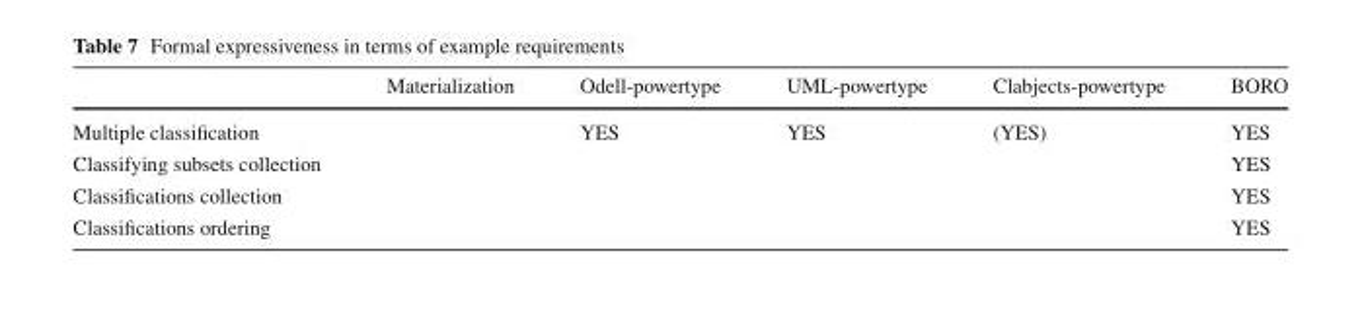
<table><thead><tr><td></td><td>Materialization</td><td>Odell-powertype</td><td>UML-powertype</td><td>Clabjects-powertype</td><td>BORO</td></tr></thead><tbody><tr><td>Multiple classification</td><td></td><td>YES</td><td>YES</td><td>(YES)</td><td>YES</td></tr><tr><td>Classifying subsets collection</td><td></td><td></td><td></td><td></td><td>YES</td></tr><tr><td>Classifications collection</td><td></td><td></td><td></td><td></td><td>YES</td></tr><tr><td>Classifications ordering</td><td></td><td></td><td></td><td></td><td>YES</td></tr></tbody></table>